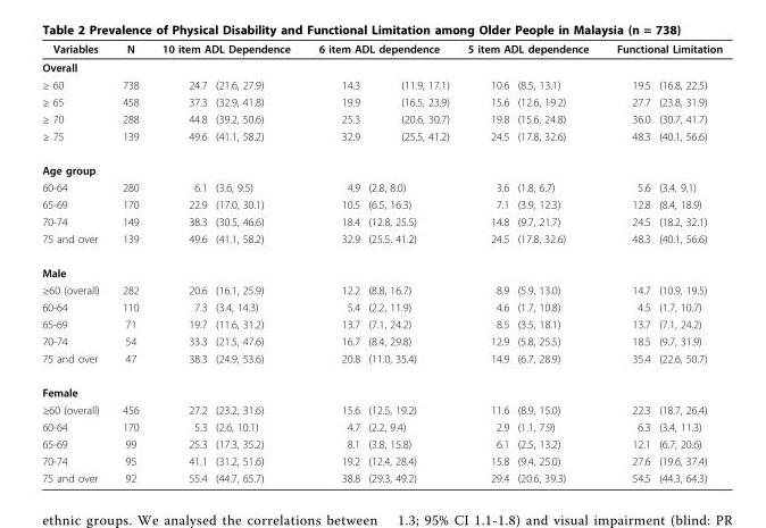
<table><thead><tr><td rowspan="2">Variables Overall</td><td rowspan="2">N</td><td colspan="2">10 item ADL Dependence</td><td colspan="2">6 item ADL dependence</td><td colspan="2">5 item ADL dependence</td><td colspan="2">Functional Limitation</td></tr><tr><td></td><td></td><td></td><td></td><td></td><td></td><td></td><td></td></tr></thead><tbody><tr><td>≥ 60</td><td>738</td><td>24.7</td><td>(21.6, 27.9)</td><td>14.3</td><td>(11.9, 17.1)</td><td>10.6</td><td>(8.5, 13.1)</td><td>19.5</td><td>(16.8, 22.5)</td></tr><tr><td>≥ 65</td><td>458</td><td>37.3</td><td>(32.9, 41.8)</td><td>19.9</td><td>(16.5, 23.9)</td><td>15.6</td><td>(12.6, 19.2)</td><td>27.7</td><td>(23.8, 31.9)</td></tr><tr><td>≥ 70</td><td>288</td><td>44.8</td><td>(39.2, 50.6)</td><td>25.3</td><td>(20.6, 30.7)</td><td>19.8</td><td>(15.6, 24.8)</td><td>36.0</td><td>(30.7, 41.7)</td></tr><tr><td>≥ 75</td><td>139</td><td>49.6</td><td>(41.1, 58.2)</td><td>32.9</td><td>(25.5, 41.2)</td><td>24.5</td><td>(17.8, 32.6)</td><td>48.3</td><td>(40.1, 56.6)</td></tr><tr><td colspan="10">Age group</td></tr><tr><td>60-64</td><td>280</td><td>6.1</td><td>(3.6, 9.5)</td><td>4.9</td><td>(2.8, 8.0)</td><td>3.6</td><td>(1.8, 6.7)</td><td>5.6</td><td>(3.4, 9.1)</td></tr><tr><td>65-69</td><td>170</td><td>22.9</td><td>(17.0, 30.1)</td><td>10.5</td><td>(6.5, 16.3)</td><td>7.1</td><td>(3.9, 12.3)</td><td>12.8</td><td>(8.4, 18.9)</td></tr><tr><td>70-74</td><td>149</td><td>38.3</td><td>(30.5, 46.6)</td><td>18.4</td><td>(12.8, 25.5)</td><td>14.8</td><td>(9.7, 21.7)</td><td>24.5</td><td>(18.2, 32.1)</td></tr><tr><td>75 and over</td><td>139</td><td>49.6</td><td>(41.1, 58.2)</td><td>32.9</td><td>(25.5, 41.2)</td><td>24.5</td><td>(17.8, 32.6)</td><td>48.3</td><td>(40.1, 56.6)</td></tr><tr><td colspan="10">Male</td></tr><tr><td>≥60 (overall)</td><td>282</td><td>20.6</td><td>(16.1, 25.9)</td><td>12.2</td><td>(8.8, 16.7)</td><td>8.9</td><td>(5.9, 13.0)</td><td>14.7</td><td>(10.9, 19.5)</td></tr><tr><td>60-64</td><td>110</td><td>7.3</td><td>(3.4, 14.3)</td><td>5.4</td><td>(2.2, 11.9)</td><td>4.6</td><td>(1.7, 10.8)</td><td>4.5</td><td>(1.7, 10.7)</td></tr><tr><td>65-69</td><td>71</td><td>19.7</td><td>(11.6, 31.2)</td><td>13.7</td><td>(7.1, 24.2)</td><td>8.5</td><td>(3.5, 18.1)</td><td>13.7</td><td>(7.1, 24.2)</td></tr><tr><td>70-74</td><td>54</td><td>33.3</td><td>(21.5, 47.6)</td><td>16.7</td><td>(8.4, 29.8)</td><td>12.9</td><td>(5.8, 25.5)</td><td>18.5</td><td>(9.7, 31.9)</td></tr><tr><td>75 and over</td><td>47</td><td>38.3</td><td>(24.9, 53.6)</td><td>20.8</td><td>(11.0, 35.4)</td><td>14.9</td><td>(6.7, 28.9)</td><td>35.4</td><td>(22.6, 50.7)</td></tr><tr><td colspan="10">Female</td></tr><tr><td>≥60 (overall)</td><td>456</td><td>27.2</td><td>(23.2, 31.6)</td><td>15.6</td><td>(12.5, 19.2)</td><td>11.6</td><td>(8.9, 15.0)</td><td>22.3</td><td>(18.7, 26.4)</td></tr><tr><td>60-64</td><td>170</td><td>5.3</td><td>(2.6, 10.1)</td><td>4.7</td><td>(2.2, 9.4)</td><td>2.9</td><td>(1.1, 7.9)</td><td>6.3</td><td>(3.4, 11.3)</td></tr><tr><td>65-69</td><td>99</td><td>25.3</td><td>(17.3, 35.2)</td><td>8.1</td><td>(3.8, 15.8)</td><td>6.1</td><td>(2.5, 13.2)</td><td>12.1</td><td>(6.7, 20.6)</td></tr><tr><td>70-74</td><td>95</td><td>41.1</td><td>(31.2, 51.6)</td><td>19.2</td><td>(12.4, 28.4)</td><td>15.8</td><td>(9.4, 25.0)</td><td>27.6</td><td>(19.6, 37.4)</td></tr><tr><td>75 and over</td><td>92</td><td>55.4</td><td>(44.7, 65.7)</td><td>38.8</td><td>(29.3, 49.2)</td><td>29.4</td><td>(20.6, 39.3)</td><td>54.5</td><td>(44.3, 64.3)</td></tr></tbody></table>